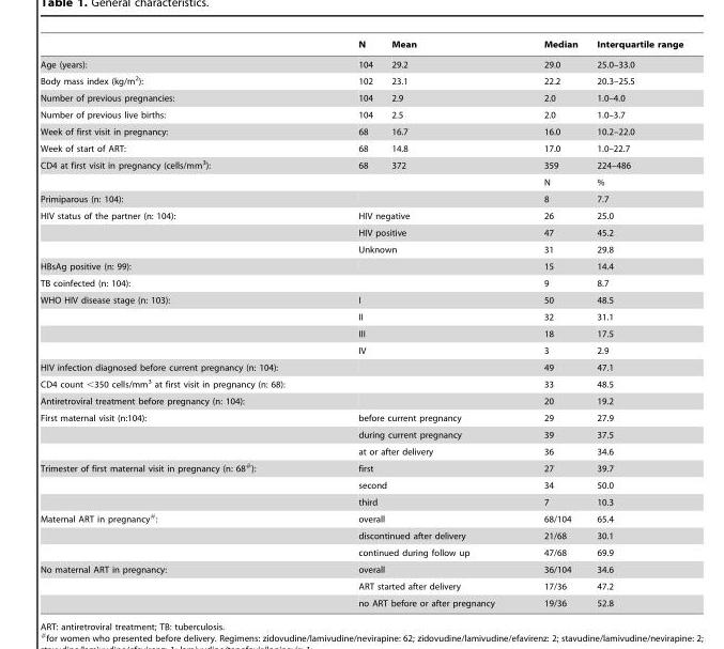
<table><thead><tr><td></td><td>N</td><td>Mean</td><td>Median</td><td>Interquartile range</td></tr></thead><tbody><tr><td>Age (years):</td><td>104</td><td>29.2</td><td>29.0</td><td>25.0–33.0</td></tr><tr><td>Body mass index (kg/m<sup>2</sup>):</td><td>102</td><td>23.1</td><td>22.2</td><td>20.3–25.5</td></tr><tr><td>Number of previous pregnancies:</td><td>104</td><td>2.9</td><td>2.0</td><td>1.0–4.0</td></tr><tr><td>Number of previous live births:</td><td>104</td><td>2.5</td><td>2.0</td><td>1.0–3.7</td></tr><tr><td>Week of first visit in pregnancy:</td><td>68</td><td>16.7</td><td>16.0</td><td>10.2–22.0</td></tr><tr><td>Week of start of ART:</td><td>68</td><td>14.8</td><td>17.0</td><td>1.0–22.7</td></tr><tr><td rowspan="2">CD4 at first visit in pregnancy (cells/mm<sup>3</sup>):</td><td>68</td><td>372</td><td>359</td><td>224–486</td></tr><tr><td></td><td></td><td>N</td><td>%</td></tr><tr><td>Primiparous (n: 104):</td><td colspan="2"></td><td>8</td><td>7.7</td></tr><tr><td rowspan="3">HIV status of the partner (n: 104):</td><td colspan="2">HIV negative</td><td>26</td><td>25.0</td></tr><tr><td colspan="2">HIV positive</td><td>47</td><td>45.2</td></tr><tr><td colspan="2">Unknown</td><td>31</td><td>29.8</td></tr><tr><td>HBsAg positive (n: 99):</td><td colspan="2"></td><td>15</td><td>14.4</td></tr><tr><td>TB coinfected (n: 104):</td><td colspan="2"></td><td>9</td><td>8.7</td></tr><tr><td rowspan="4">WHO HIV disease stage (n: 103):</td><td colspan="2">I</td><td>50</td><td>48.5</td></tr><tr><td colspan="2">II</td><td>32</td><td>31.1</td></tr><tr><td colspan="2">III</td><td>18</td><td>17.5</td></tr><tr><td colspan="2">IV</td><td>3</td><td>2.9</td></tr><tr><td>HIV infection diagnosed before current pregnancy (n: 104):</td><td colspan="2"></td><td>49</td><td>47.1</td></tr><tr><td>CD4 count &lt;350 cells/mm<sup>3</sup> at first visit in pregnancy (n: 68):</td><td colspan="2"></td><td>33</td><td>48.5</td></tr><tr><td>Antiretroviral treatment before pregnancy (n: 104):</td><td colspan="2"></td><td>20</td><td>19.2</td></tr><tr><td rowspan="3">First maternal visit (n:104):</td><td colspan="2">before current pregnancy</td><td>29</td><td>27.9</td></tr><tr><td colspan="2">during current pregnancy</td><td>39</td><td>37.5</td></tr><tr><td colspan="2">at or after delivery</td><td>36</td><td>34.6</td></tr><tr><td rowspan="3">Trimester of first maternal visit in pregnancy (n: 68#):</td><td colspan="2">first</td><td>27</td><td>39.7</td></tr><tr><td colspan="2">second</td><td>34</td><td>50.0</td></tr><tr><td colspan="2">third</td><td>7</td><td>10.3</td></tr><tr><td rowspan="3">Maternal ART in pregnancy#:</td><td colspan="2">overall</td><td>68/104</td><td>65.4</td></tr><tr><td colspan="2">discontinued after delivery</td><td>21/68</td><td>30.1</td></tr><tr><td colspan="2">continued during follow up</td><td>47/68</td><td>69.9</td></tr><tr><td rowspan="3">No maternal ART in pregnancy:</td><td colspan="2">overall</td><td>36/104</td><td>34.6</td></tr><tr><td colspan="2">ART started after delivery</td><td>17/36</td><td>47.2</td></tr><tr><td colspan="2">no ART before or after pregnancy</td><td>19/36</td><td>52.8</td></tr></tbody></table>